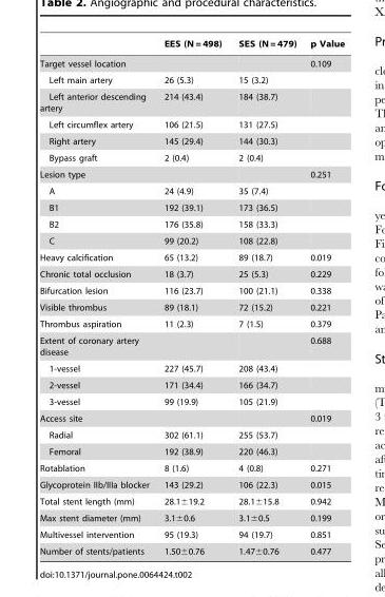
<table><thead><tr><td></td><td>EES (N = 498)</td><td>SES (N = 479)</td><td>p Value</td></tr></thead><tbody><tr><td>Target vessel location</td><td></td><td></td><td>0.109</td></tr><tr><td>Left main artery</td><td>26 (5.3)</td><td>15 (3.2)</td><td></td></tr><tr><td>Left anterior descending artery</td><td>214 (43.4)</td><td>184 (38.7)</td><td></td></tr><tr><td>Left circumflex artery</td><td>106 (21.5)</td><td>131 (27.5)</td><td></td></tr><tr><td>Right artery</td><td>145 (29.4)</td><td>144 (30.3)</td><td></td></tr><tr><td>Bypass graft</td><td>2 (0.4)</td><td>2 (0.4)</td><td></td></tr><tr><td>Lesion type</td><td></td><td></td><td>0.251</td></tr><tr><td>A</td><td>24 (4.9)</td><td>35 (7.4)</td><td></td></tr><tr><td>B1</td><td>192 (39.1)</td><td>173 (36.5)</td><td></td></tr><tr><td>B2</td><td>176 (35.8)</td><td>158 (33.3)</td><td></td></tr><tr><td>C</td><td>99 (20.2)</td><td>108 (22.8)</td><td></td></tr><tr><td>Heavy calcification</td><td>65 (13.2)</td><td>89 (18.7)</td><td>0.019</td></tr><tr><td>Chronic total occlusion</td><td>18 (3.7)</td><td>25 (5.3)</td><td>0.229</td></tr><tr><td>Bifurcation lesion</td><td>116 (23.7)</td><td>100 (21.1)</td><td>0.338</td></tr><tr><td>Visible thrombus</td><td>89 (18.1)</td><td>72 (15.2)</td><td>0.221</td></tr><tr><td>Thrombus aspiration</td><td>11 (2.3)</td><td>7 (1.5)</td><td>0.379</td></tr><tr><td>Extent of coronary artery disease</td><td></td><td></td><td>0.688</td></tr><tr><td>1-vessel</td><td>227 (45.7)</td><td>208 (43.4)</td><td></td></tr><tr><td>2-vessel</td><td>171 (34.4)</td><td>166 (34.7)</td><td></td></tr><tr><td>3-vessel</td><td>99 (19.9)</td><td>105 (21.9)</td><td></td></tr><tr><td>Access site</td><td></td><td></td><td>0.019</td></tr><tr><td>Radial</td><td>302 (61.1)</td><td>255 (53.7)</td><td></td></tr><tr><td>Femoral</td><td>192 (38.9)</td><td>220 (46.3)</td><td></td></tr><tr><td>Rotablation</td><td>8 (1.6)</td><td>4 (0.8)</td><td>0.271</td></tr><tr><td>Glycoprotein IIb/IIIa blocker</td><td>143 (29.2)</td><td>106 (22.3)</td><td>0.015</td></tr><tr><td>Total stent length (mm)</td><td>28.1±19.2</td><td>28.1±15.8</td><td>0.942</td></tr><tr><td>Max stent diameter (mm)</td><td>3.1±0.6</td><td>3.1±0.5</td><td>0.199</td></tr><tr><td>Multivessel intervention</td><td>95 (19.3)</td><td>94 (19.7)</td><td>0.851</td></tr><tr><td>Number of stents/patients</td><td>1.50±0.76</td><td>1.47±0.76</td><td>0.477</td></tr></tbody></table>